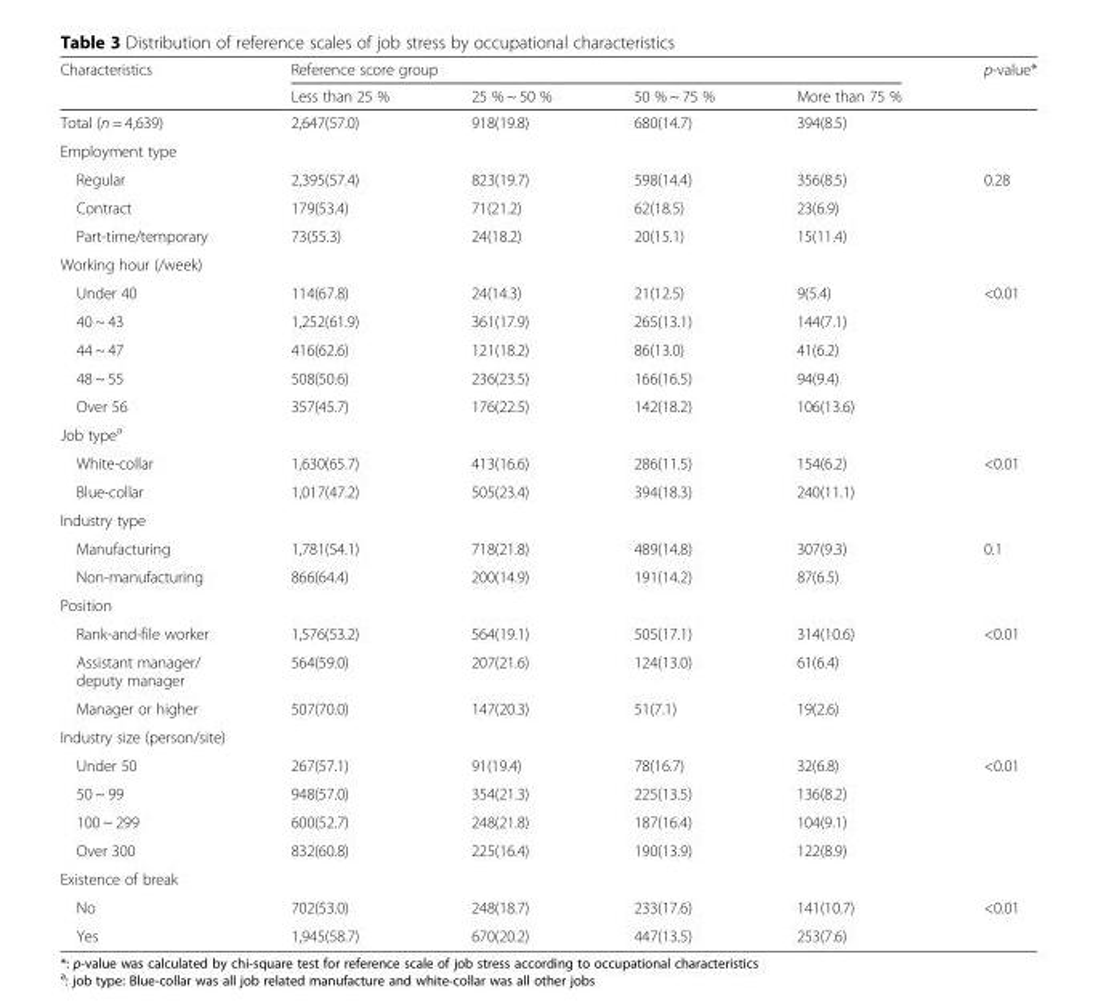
<table><thead><tr><td rowspan="2">Characteristics</td><td colspan="4">Reference score group</td><td rowspan="2">p-value*</td></tr><tr><td>Less than 25 %</td><td>25 % ~ 50 %</td><td>50 % ~ 75 %</td><td>More than 75 %</td></tr></thead><tbody><tr><td>Total (n = 4,639)</td><td>2,647(57.0)</td><td>918(19.8)</td><td>680(14.7)</td><td>394(8.5)</td><td></td></tr><tr><td colspan="6">Employment type</td></tr><tr><td>Regular</td><td>2,395(57.4)</td><td>823(19.7)</td><td>598(14.4)</td><td>356(8.5)</td><td rowspan="3">0.28</td></tr><tr><td>Contract</td><td>179(53.4)</td><td>71(21.2)</td><td>62(18.5)</td><td>23(6.9)</td></tr><tr><td>Part-time/temporary</td><td>73(55.3)</td><td>24(18.2)</td><td>20(15.1)</td><td>15(11.4)</td></tr><tr><td colspan="6">Working hour (/week)</td></tr><tr><td>Under 40</td><td>114(67.8)</td><td>24(14.3)</td><td>21(12.5)</td><td>9(5.4)</td><td rowspan="5">&lt;0.01</td></tr><tr><td>40 ~ 43</td><td>1,252(61.9)</td><td>361(17.9)</td><td>265(13.1)</td><td>144(7.1)</td></tr><tr><td>44 ~ 47</td><td>416(62.6)</td><td>121(18.2)</td><td>86(13.0)</td><td>41(6.2)</td></tr><tr><td>48 ~ 55</td><td>508(50.6)</td><td>236(23.5)</td><td>166(16.5)</td><td>94(9.4)</td></tr><tr><td>Over 56</td><td>357(45.7)</td><td>176(22.5)</td><td>142(18.2)</td><td>106(13.6)</td></tr><tr><td colspan="6">Job type<sup>a</sup></td></tr><tr><td>White-collar</td><td>1,630(65.7)</td><td>413(16.6)</td><td>286(11.5)</td><td>154(6.2)</td><td rowspan="2">&lt;0.01</td></tr><tr><td>Blue-collar</td><td>1,017(47.2)</td><td>505(23.4)</td><td>394(18.3)</td><td>240(11.1)</td></tr><tr><td colspan="6">Industry type</td></tr><tr><td>Manufacturing</td><td>1,781(54.1)</td><td>718(21.8)</td><td>489(14.8)</td><td>307(9.3)</td><td rowspan="2">0.1</td></tr><tr><td>Non-manufacturing</td><td>866(64.4)</td><td>200(14.9)</td><td>191(14.2)</td><td>87(6.5)</td></tr><tr><td colspan="6">Position</td></tr><tr><td>Rank-and-file worker</td><td>1,576(53.2)</td><td>564(19.1)</td><td>505(17.1)</td><td>314(10.6)</td><td rowspan="3">&lt;0.01</td></tr><tr><td>Assistant manager/ deputy manager</td><td>564(59.0)</td><td>207(21.6)</td><td>124(13.0)</td><td>61(6.4)</td></tr><tr><td>Manager or higher</td><td>507(70.0)</td><td>147(20.3)</td><td>51(7.1)</td><td>19(2.6)</td></tr><tr><td colspan="6">Industry size (person/site)</td></tr><tr><td>Under 50</td><td>267(57.1)</td><td>91(19.4)</td><td>78(16.7)</td><td>32(6.8)</td><td rowspan="4">&lt;0.01</td></tr><tr><td>50 ~ 99</td><td>948(57.0)</td><td>354(21.3)</td><td>225(13.5)</td><td>136(8.2)</td></tr><tr><td>100 ~ 299</td><td>600(52.7)</td><td>248(21.8)</td><td>187(16.4)</td><td>104(9.1)</td></tr><tr><td>Over 300</td><td>832(60.8)</td><td>225(16.4)</td><td>190(13.9)</td><td>122(8.9)</td></tr><tr><td colspan="6">Existence of break</td></tr><tr><td>No</td><td>702(53.0)</td><td>248(18.7)</td><td>233(17.6)</td><td>141(10.7)</td><td rowspan="2">&lt;0.01</td></tr><tr><td>Yes</td><td>1,945(58.7)</td><td>670(20.2)</td><td>447(13.5)</td><td>253(7.6)</td></tr></tbody></table>